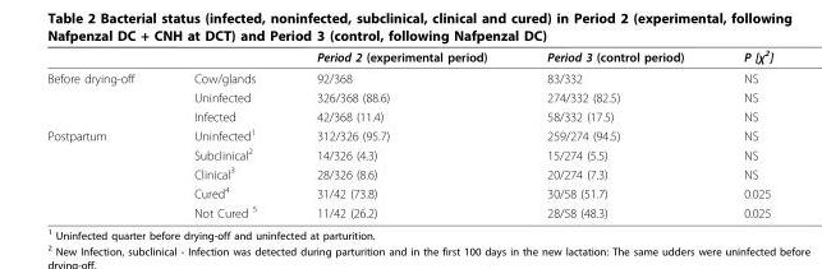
<table><thead><tr><td></td><td></td><td>Period 2 (experimental period)</td><td>Period 3 (control period)</td><td>P [χ<sup>2</sup>]</td></tr></thead><tbody><tr><td rowspan="3">Before drying-off</td><td>Cow/glands</td><td>92/368</td><td>83/332</td><td>NS</td></tr><tr><td>Uninfected</td><td>326/368 (88.6)</td><td>274/332 (82.5)</td><td>NS</td></tr><tr><td>Infected</td><td>42/368 (11.4)</td><td>58/332 (17.5)</td><td>NS</td></tr><tr><td rowspan="5">Postpartum</td><td>Uninfected<sup>1</sup></td><td>312/326 (95.7)</td><td>259/274 (94.5)</td><td>NS</td></tr><tr><td>Subclinical<sup>2</sup></td><td>14/326 (4.3)</td><td>15/274 (5.5)</td><td>NS</td></tr><tr><td>Clinical<sup>3</sup></td><td>28/326 (8.6)</td><td>20/274 (7.3)</td><td>NS</td></tr><tr><td>Cured<sup>4</sup></td><td>31/42 (73.8)</td><td>30/58 (51.7)</td><td>0.025</td></tr><tr><td>Not Cured <sup>5</sup></td><td>11/42 (26.2)</td><td>28/58 (48.3)</td><td>0.025</td></tr></tbody></table>